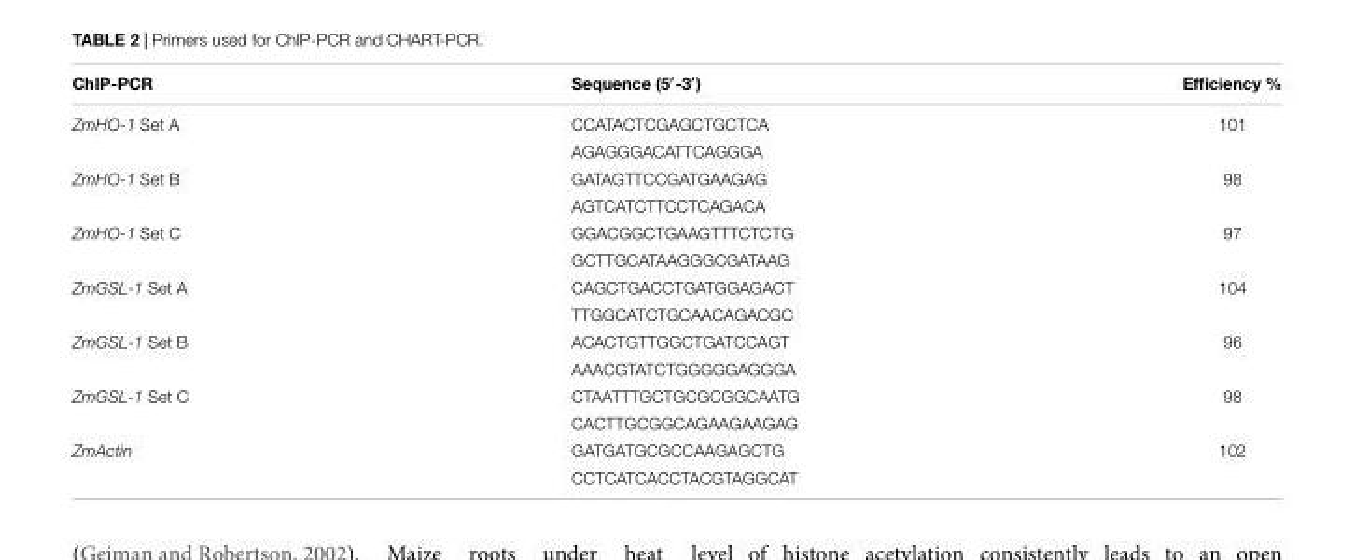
<table><thead><tr><td>ChIP-PCR</td><td>Sequence (5′-3′)</td><td>Efficiency %</td></tr></thead><tbody><tr><td rowspan="2">ZmHO-1 Set A</td><td>CCATACTCGAGCTGCTCA</td><td>101</td></tr><tr><td>AGAGGGACATTCAGGGA</td><td></td></tr><tr><td rowspan="2">ZmHO-1 Set B</td><td>GATAGTTCCGATGAAGAG</td><td>98</td></tr><tr><td>AGTCATCTTCCTCAGACA</td><td></td></tr><tr><td rowspan="2">ZmHO-1 Set C</td><td>GGACGGCTGAAGTTTCTCTG</td><td>97</td></tr><tr><td>GCTTGCATAAGGGCGATAAG</td><td></td></tr><tr><td rowspan="2">ZmGSL-1 Set A</td><td>CAGCTGACCTGATGGAGACT</td><td>104</td></tr><tr><td>TTGGCATCTGCAACAGACGC</td><td></td></tr><tr><td rowspan="2">ZmGSL-1 Set B</td><td>ACACTGTTGGCTGATCCAGT</td><td>96</td></tr><tr><td>AAACGTATCTGGGGGAGGGA</td><td></td></tr><tr><td rowspan="2">ZmGSL-1 Set C</td><td>CTAATTTGCTGCGCGGCAATG</td><td>98</td></tr><tr><td>CACTTGCGGCAGAAGAAGAG</td><td></td></tr><tr><td rowspan="2">ZmActin</td><td>GATGATGCGCCAAGAGCTG</td><td>102</td></tr><tr><td>CCTCATCACCTACGTAGGCAT</td><td></td></tr></tbody></table>